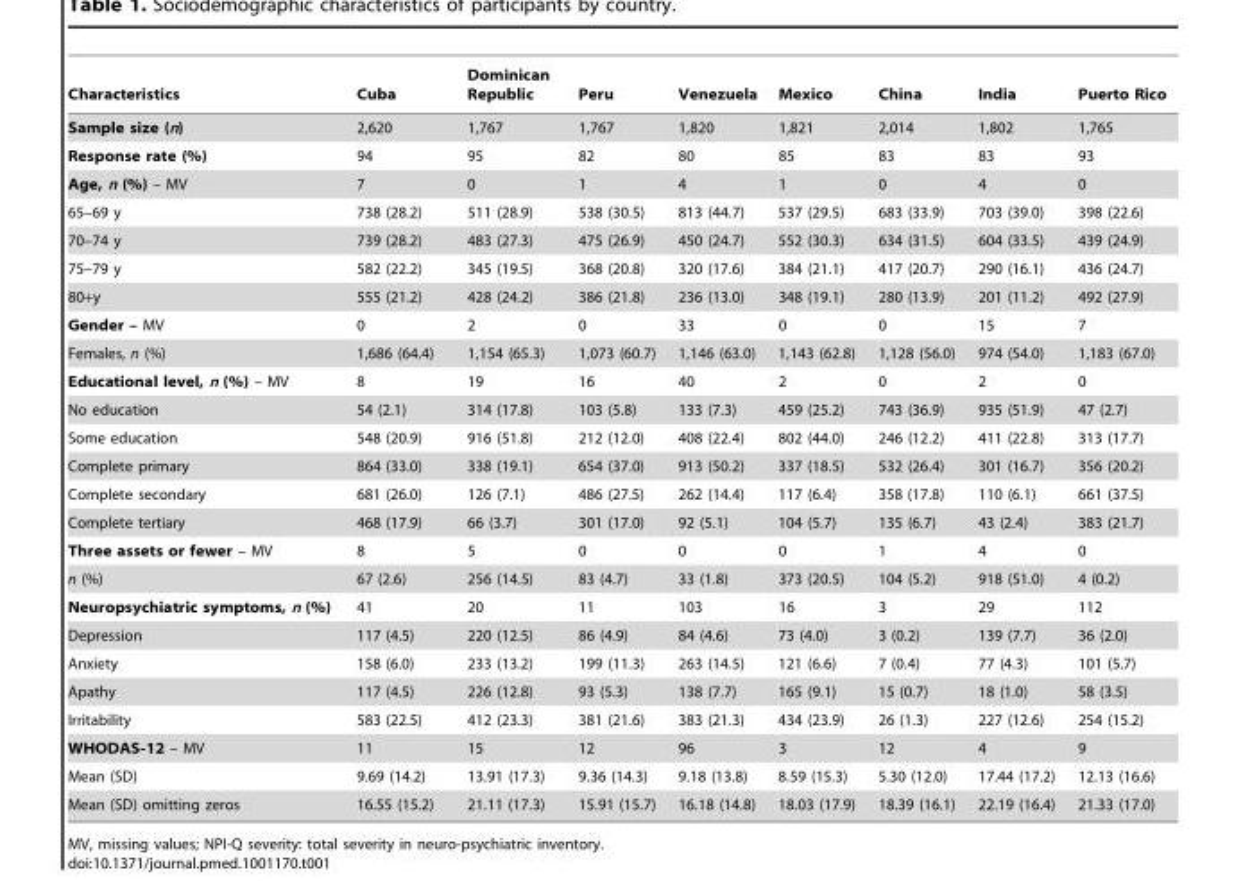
<table><thead><tr><td>Characteristics</td><td>Cuba</td><td>Dominican Republic</td><td>Peru</td><td>Venezuela</td><td>Mexico</td><td>China</td><td>India</td><td>Puerto Rico</td></tr></thead><tbody><tr><td>Sample size (n)</td><td>2,620</td><td>1,767</td><td>1,767</td><td>1,820</td><td>1,821</td><td>2,014</td><td>1,802</td><td>1,765</td></tr><tr><td>Response rate (%)</td><td>94</td><td>95</td><td>82</td><td>80</td><td>85</td><td>83</td><td>83</td><td>93</td></tr><tr><td>Age, n (%) – MV</td><td>7</td><td>0</td><td>1</td><td>4</td><td>1</td><td>0</td><td>4</td><td>0</td></tr><tr><td>65–69 y</td><td>738 (28.2)</td><td>511 (28.9)</td><td>538 (30.5)</td><td>813 (44.7)</td><td>537 (29.5)</td><td>683 (33.9)</td><td>703 (39.0)</td><td>398 (22.6)</td></tr><tr><td>70–74 y</td><td>739 (28.2)</td><td>483 (27.3)</td><td>475 (26.9)</td><td>450 (24.7)</td><td>552 (30.3)</td><td>634 (31.5)</td><td>604 (33.5)</td><td>439 (24.9)</td></tr><tr><td>75–79 y</td><td>582 (22.2)</td><td>345 (19.5)</td><td>368 (20.8)</td><td>320 (17.6)</td><td>384 (21.1)</td><td>417 (20.7)</td><td>290 (16.1)</td><td>436 (24.7)</td></tr><tr><td>80+y</td><td>555 (21.2)</td><td>428 (24.2)</td><td>386 (21.8)</td><td>236 (13.0)</td><td>348 (19.1)</td><td>280 (13.9)</td><td>201 (11.2)</td><td>492 (27.9)</td></tr><tr><td>Gender – MV</td><td>0</td><td>2</td><td>0</td><td>33</td><td>0</td><td>0</td><td>15</td><td>7</td></tr><tr><td>Females, n (%)</td><td>1,686 (64.4)</td><td>1,154 (65.3)</td><td>1,073 (60.7)</td><td>1,146 (63.0)</td><td>1,143 (62.8)</td><td>1,128 (56.0)</td><td>974 (54.0)</td><td>1,183 (67.0)</td></tr><tr><td>Educational level, n (%) – MV</td><td>8</td><td>19</td><td>16</td><td>40</td><td>2</td><td>0</td><td>2</td><td>0</td></tr><tr><td>No education</td><td>54 (2.1)</td><td>314 (17.8)</td><td>103 (5.8)</td><td>133 (7.3)</td><td>459 (25.2)</td><td>743 (36.9)</td><td>935 (51.9)</td><td>47 (2.7)</td></tr><tr><td>Some education</td><td>548 (20.9)</td><td>916 (51.8)</td><td>212 (12.0)</td><td>408 (22.4)</td><td>802 (44.0)</td><td>246 (12.2)</td><td>411 (22.8)</td><td>313 (17.7)</td></tr><tr><td>Complete primary</td><td>864 (33.0)</td><td>338 (19.1)</td><td>654 (37.0)</td><td>913 (50.2)</td><td>337 (18.5)</td><td>532 (26.4)</td><td>301 (16.7)</td><td>356 (20.2)</td></tr><tr><td>Complete secondary</td><td>681 (26.0)</td><td>126 (7.1)</td><td>486 (27.5)</td><td>262 (14.4)</td><td>117 (6.4)</td><td>358 (17.8)</td><td>110 (6.1)</td><td>661 (37.5)</td></tr><tr><td>Complete tertiary</td><td>468 (17.9)</td><td>66 (3.7)</td><td>301 (17.0)</td><td>92 (5.1)</td><td>104 (5.7)</td><td>135 (6.7)</td><td>43 (2.4)</td><td>383 (21.7)</td></tr><tr><td>Three assets or fewer – MV</td><td>8</td><td>5</td><td>0</td><td>0</td><td>0</td><td>1</td><td>4</td><td>0</td></tr><tr><td>n (%)</td><td>67 (2.6)</td><td>256 (14.5)</td><td>83 (4.7)</td><td>33 (1.8)</td><td>373 (20.5)</td><td>104 (5.2)</td><td>918 (51.0)</td><td>4 (0.2)</td></tr><tr><td>Neuropsychiatric symptoms, n (%)</td><td>41</td><td>20</td><td>11</td><td>103</td><td>16</td><td>3</td><td>29</td><td>112</td></tr><tr><td>Depression</td><td>117 (4.5)</td><td>220 (12.5)</td><td>86 (4.9)</td><td>84 (4.6)</td><td>73 (4.0)</td><td>3 (0.2)</td><td>139 (7.7)</td><td>36 (2.0)</td></tr><tr><td>Anxiety</td><td>158 (6.0)</td><td>233 (13.2)</td><td>199 (11.3)</td><td>263 (14.5)</td><td>121 (6.6)</td><td>7 (0.4)</td><td>77 (4.3)</td><td>101 (5.7)</td></tr><tr><td>Apathy</td><td>117 (4.5)</td><td>226 (12.8)</td><td>93 (5.3)</td><td>138 (7.7)</td><td>165 (9.1)</td><td>15 (0.7)</td><td>18 (1.0)</td><td>58 (3.5)</td></tr><tr><td>Irritability</td><td>583 (22.5)</td><td>412 (23.3)</td><td>381 (21.6)</td><td>383 (21.3)</td><td>434 (23.9)</td><td>26 (1.3)</td><td>227 (12.6)</td><td>254 (15.2)</td></tr><tr><td>WHODAS-12 – MV</td><td>11</td><td>15</td><td>12</td><td>96</td><td>3</td><td>12</td><td>4</td><td>9</td></tr><tr><td>Mean (SD)</td><td>9.69 (14.2)</td><td>13.91 (17.3)</td><td>9.36 (14.3)</td><td>9.18 (13.8)</td><td>8.59 (15.3)</td><td>5.30 (12.0)</td><td>17.44 (17.2)</td><td>12.13 (16.6)</td></tr><tr><td>Mean (SD) omitting zeros</td><td>16.55 (15.2)</td><td>21.11 (17.3)</td><td>15.91 (15.7)</td><td>16.18 (14.8)</td><td>18.03 (17.9)</td><td>18.39 (16.1)</td><td>22.19 (16.4)</td><td>21.33 (17.0)</td></tr></tbody></table>